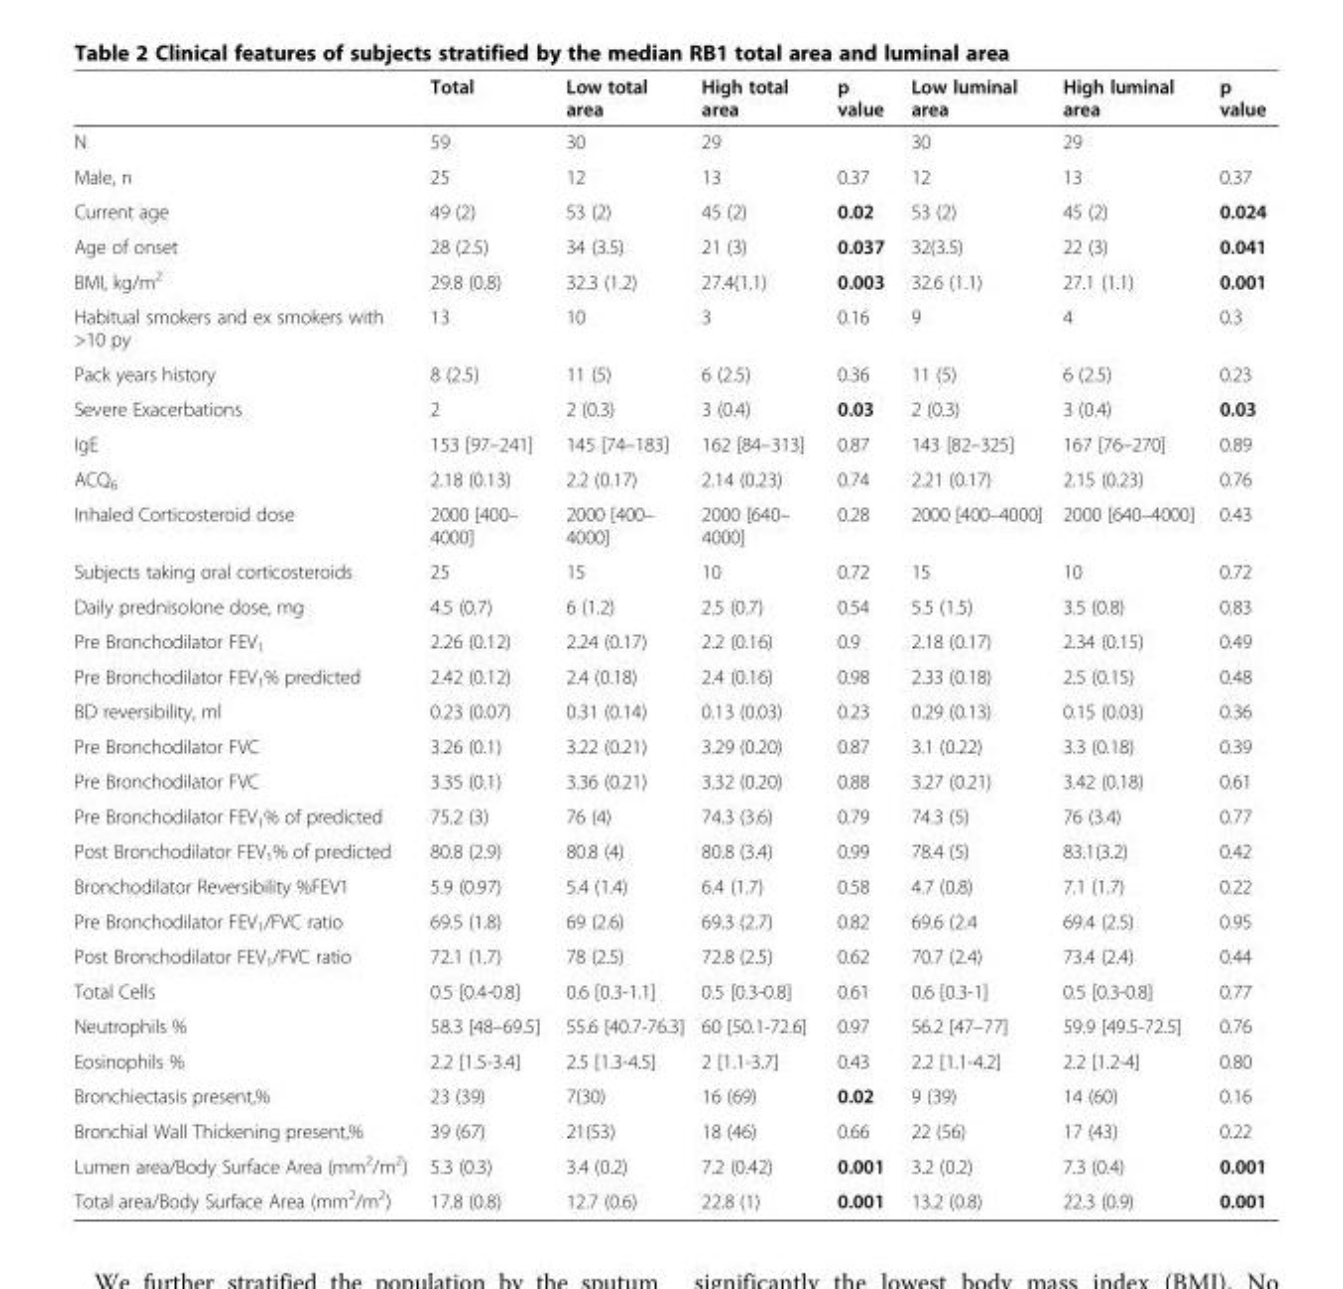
<table><thead><tr><td></td><td>Total</td><td>Low total area</td><td>High total area</td><td>p value</td><td>Low luminal area</td><td>High luminal area</td><td>p value</td></tr></thead><tbody><tr><td>N</td><td>59</td><td>30</td><td>29</td><td></td><td>30</td><td>29</td><td></td></tr><tr><td>Male, n</td><td>25</td><td>12</td><td>13</td><td>0.37</td><td>12</td><td>13</td><td>0.37</td></tr><tr><td>Current age</td><td>49 (2)</td><td>53 (2)</td><td>45 (2)</td><td>0.02</td><td>53 (2)</td><td>45 (2)</td><td>0.024</td></tr><tr><td>Age of onset</td><td>28 (2.5)</td><td>34 (3.5)</td><td>21 (3)</td><td>0.037</td><td>32(3.5)</td><td>22 (3)</td><td>0.041</td></tr><tr><td>BMI, kg/m<sup>2</sup></td><td>29.8 (0.8)</td><td>32.3 (1.2)</td><td>27.4(1.1)</td><td>0.003</td><td>32.6 (1.1)</td><td>27.1 (1.1)</td><td>0.001</td></tr><tr><td>Habitual smokers and ex smokers with &gt;10 py</td><td>13</td><td>10</td><td>3</td><td>0.16</td><td>9</td><td>4</td><td>0.3</td></tr><tr><td>Pack years history</td><td>8 (2.5)</td><td>11 (5)</td><td>6 (2.5)</td><td>0.36</td><td>11 (5)</td><td>6 (2.5)</td><td>0.23</td></tr><tr><td>Severe Exacerbations</td><td>2</td><td>2 (0.3)</td><td>3 (0.4)</td><td>0.03</td><td>2 (0.3)</td><td>3 (0.4)</td><td>0.03</td></tr><tr><td>IgE</td><td>153 [97–241]</td><td>145 [74–183]</td><td>162 [84–313]</td><td>0.87</td><td>143 [82–325]</td><td>167 [76–270]</td><td>0.89</td></tr><tr><td>ACQ<sub>6</sub></td><td>2.18 (0.13)</td><td>2.2 (0.17)</td><td>2.14 (0.23)</td><td>0.74</td><td>2.21 (0.17)</td><td>2.15 (0.23)</td><td>0.76</td></tr><tr><td>Inhaled Corticosteroid dose</td><td>2000 [400– 4000]</td><td>2000 [400– 4000]</td><td>2000 [640– 4000]</td><td>0.28</td><td>2000 [400–4000]</td><td>2000 [640–4000]</td><td>0.43</td></tr><tr><td>Subjects taking oral corticosteroids</td><td>25</td><td>15</td><td>10</td><td>0.72</td><td>15</td><td>10</td><td>0.72</td></tr><tr><td>Daily prednisolone dose, mg</td><td>4.5 (0.7)</td><td>6 (1.2)</td><td>2.5 (0.7)</td><td>0.54</td><td>5.5 (1.5)</td><td>3.5 (0.8)</td><td>0.83</td></tr><tr><td>Pre Bronchodilator FEV<sub>1</sub></td><td>2.26 (0.12)</td><td>2.24 (0.17)</td><td>2.2 (0.16)</td><td>0.9</td><td>2.18 (0.17)</td><td>2.34 (0.15)</td><td>0.49</td></tr><tr><td>Pre Bronchodilator FEV<sub>1</sub>% predicted</td><td>2.42 (0.12)</td><td>2.4 (0.18)</td><td>2.4 (0.16)</td><td>0.98</td><td>2.33 (0.18)</td><td>2.5 (0.15)</td><td>0.48</td></tr><tr><td>BD reversibility, ml</td><td>0.23 (0.07)</td><td>0.31 (0.14)</td><td>0.13 (0.03)</td><td>0.23</td><td>0.29 (0.13)</td><td>0.15 (0.03)</td><td>0.36</td></tr><tr><td>Pre Bronchodilator FVC</td><td>3.26 (0.1)</td><td>3.22 (0.21)</td><td>3.29 (0.20)</td><td>0.87</td><td>3.1 (0.22)</td><td>3.3 (0.18)</td><td>0.39</td></tr><tr><td>Pre Bronchodilator FVC</td><td>3.35 (0.1)</td><td>3.36 (0.21)</td><td>3.32 (0.20)</td><td>0.88</td><td>3.27 (0.21)</td><td>3.42 (0.18)</td><td>0.61</td></tr><tr><td>Pre Bronchodilator FEV<sub>1</sub>% of predicted</td><td>75.2 (3)</td><td>76 (4)</td><td>74.3 (3.6)</td><td>0.79</td><td>74.3 (5)</td><td>76 (3.4)</td><td>0.77</td></tr><tr><td>Post Bronchodilator FEV<sub>1</sub>% of predicted</td><td>80.8 (2.9)</td><td>80.8 (4)</td><td>80.8 (3.4)</td><td>0.99</td><td>78.4 (5)</td><td>83.1(3.2)</td><td>0.42</td></tr><tr><td>Bronchodilator Reversibility %FEV1</td><td>5.9 (0.97)</td><td>5.4 (1.4)</td><td>6.4 (1.7)</td><td>0.58</td><td>4.7 (0.8)</td><td>7.1 (1.7)</td><td>0.22</td></tr><tr><td>Pre Bronchodilator FEV<sub>1</sub>/FVC ratio</td><td>69.5 (1.8)</td><td>69 (2.6)</td><td>69.3 (2.7)</td><td>0.82</td><td>69.6 (2.4</td><td>69.4 (2.5)</td><td>0.95</td></tr><tr><td>Post Bronchodilator FEV<sub>1</sub>/FVC ratio</td><td>72.1 (1.7)</td><td>78 (2.5)</td><td>72.8 (2.5)</td><td>0.62</td><td>70.7 (2.4)</td><td>73.4 (2.4)</td><td>0.44</td></tr><tr><td>Total Cells</td><td>0.5 [0.4-0.8]</td><td>0.6 [0.3-1.1]</td><td>0.5 [0.3-0.8]</td><td>0.61</td><td>0.6 [0.3-1]</td><td>0.5 [0.3-0.8]</td><td>0.77</td></tr><tr><td>Neutrophils %</td><td>58.3 [48–69.5]</td><td>55.6 [40.7-76.3]</td><td>60 [50.1-72.6]</td><td>0.97</td><td>56.2 [47–77]</td><td>59.9 [49.5-72.5]</td><td>0.76</td></tr><tr><td>Eosinophils %</td><td>2.2 [1.5-3.4]</td><td>2.5 [1.3-4.5]</td><td>2 [1.1-3.7]</td><td>0.43</td><td>2.2 [1.1-4.2]</td><td>2.2 [1.2-4]</td><td>0.80</td></tr><tr><td>Bronchiectasis present,%</td><td>23 (39)</td><td>7(30)</td><td>16 (69)</td><td>0.02</td><td>9 (39)</td><td>14 (60)</td><td>0.16</td></tr><tr><td>Bronchial Wall Thickening present,%</td><td>39 (67)</td><td>21(53)</td><td>18 (46)</td><td>0.66</td><td>22 (56)</td><td>17 (43)</td><td>0.22</td></tr><tr><td>Lumen area/Body Surface Area (mm<sup>2</sup>/m<sup>2</sup>)</td><td>5.3 (0.3)</td><td>3.4 (0.2)</td><td>7.2 (0.42)</td><td>0.001</td><td>3.2 (0.2)</td><td>7.3 (0.4)</td><td>0.001</td></tr><tr><td>Total area/Body Surface Area (mm<sup>2</sup>/m<sup>2</sup>)</td><td>17.8 (0.8)</td><td>12.7 (0.6)</td><td>22.8 (1)</td><td>0.001</td><td>13.2 (0.8)</td><td>22.3 (0.9)</td><td>0.001</td></tr></tbody></table>